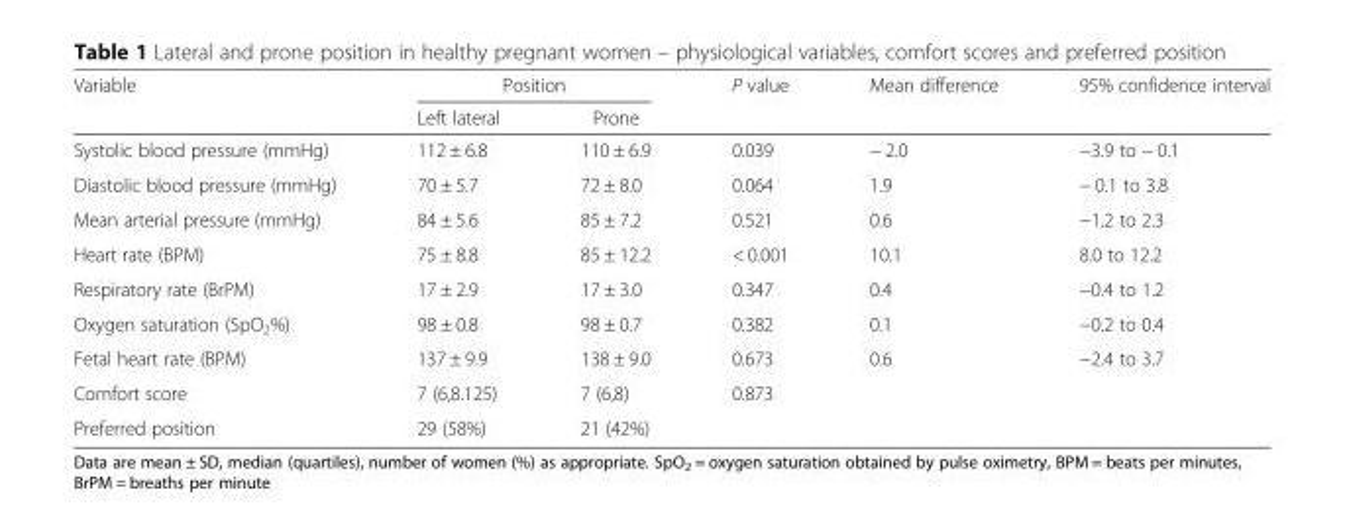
<table><thead><tr><td rowspan="2">Variable</td><td colspan="2">Position</td><td rowspan="2">P value</td><td rowspan="2">Mean difference</td><td rowspan="2">95% confidence interval</td></tr><tr><td>Left lateral</td><td>Prone</td></tr></thead><tbody><tr><td>Systolic blood pressure (mmHg)</td><td>112 ± 6.8</td><td>110 ± 6.9</td><td>0.039</td><td>− 2.0</td><td>−3.9 to − 0.1</td></tr><tr><td>Diastolic blood pressure (mmHg)</td><td>70 ± 5.7</td><td>72 ± 8.0</td><td>0.064</td><td>1.9</td><td>− 0.1 to 3.8</td></tr><tr><td>Mean arterial pressure (mmHg)</td><td>84 ± 5.6</td><td>85 ± 7.2</td><td>0.521</td><td>0.6</td><td>−1.2 to 2.3</td></tr><tr><td>Heart rate (BPM)</td><td>75 ± 8.8</td><td>85 ± 12.2</td><td>&lt; 0.001</td><td>10.1</td><td>8.0 to 12.2</td></tr><tr><td>Respiratory rate (BrPM)</td><td>17 ± 2.9</td><td>17 ± 3.0</td><td>0.347</td><td>0.4</td><td>−0.4 to 1.2</td></tr><tr><td>Oxygen saturation (SpO<sub>2</sub>%)</td><td>98 ± 0.8</td><td>98 ± 0.7</td><td>0.382</td><td>0.1</td><td>−0.2 to 0.4</td></tr><tr><td>Fetal heart rate (BPM)</td><td>137 ± 9.9</td><td>138 ± 9.0</td><td>0.673</td><td>0.6</td><td>−2.4 to 3.7</td></tr><tr><td>Comfort score</td><td>7 (6,8.125)</td><td>7 (6,8)</td><td>0.873</td><td></td><td></td></tr><tr><td>Preferred position</td><td>29 (58%)</td><td>21 (42%)</td><td></td><td></td><td></td></tr></tbody></table>